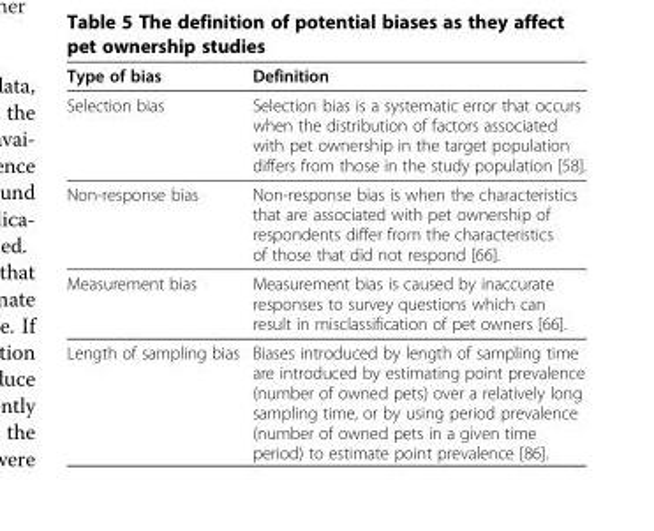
<table><thead><tr><td>Type of bias</td><td>Definition</td></tr></thead><tbody><tr><td>Selection bias</td><td>Selection bias is a systematic error that occurs when the distribution of factors associated with pet ownership in the target population differs from those in the study population [58].</td></tr><tr><td>Non-response bias</td><td>Non-response bias is when the characteristics that are associated with pet ownership of respondents differ from the characteristics of those that did not respond [66].</td></tr><tr><td>Measurement bias</td><td>Measurement bias is caused by inaccurate responses to survey questions which can result in misclassification of pet owners [66].</td></tr><tr><td>Length of sampling bias</td><td>Biases introduced by length of sampling time are introduced by estimating point prevalence (number of owned pets) over a relatively long sampling time, or by using period prevalence (number of owned pets in a given time period) to estimate point prevalence [86].</td></tr></tbody></table>